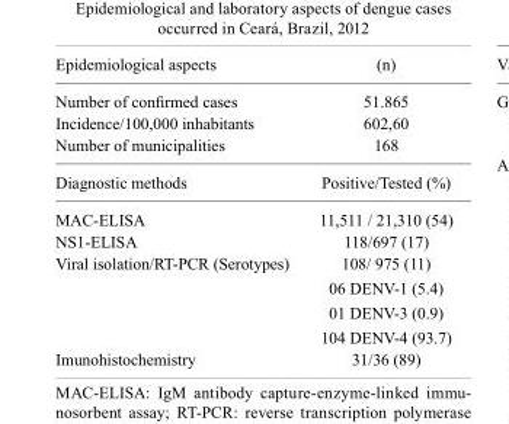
<table><tbody><tr><td>Epidemiological aspects</td><td>(n)</td></tr><tr><td>Number of confirmed cases</td><td>51.865</td></tr><tr><td>Incidence/100,000 inhabitants</td><td>602,60</td></tr><tr><td>Number of municipalities</td><td>168</td></tr><tr><td>Diagnostic methods</td><td>Positive/Tested (%)</td></tr><tr><td>MAC-ELISA</td><td>11,511 / 21,310 (54)</td></tr><tr><td>NS1-ELISA</td><td>118/697 (17)</td></tr><tr><td>Viral isolation/RT-PCR (Serotypes)</td><td>108/ 975 (11) 06 DENV-1 (5.4) 01 DENV-3 (0.9) 104 DENV-4 (93.7)</td></tr><tr><td>Imunohistochemistry</td><td>31/36 (89)</td></tr></tbody></table>